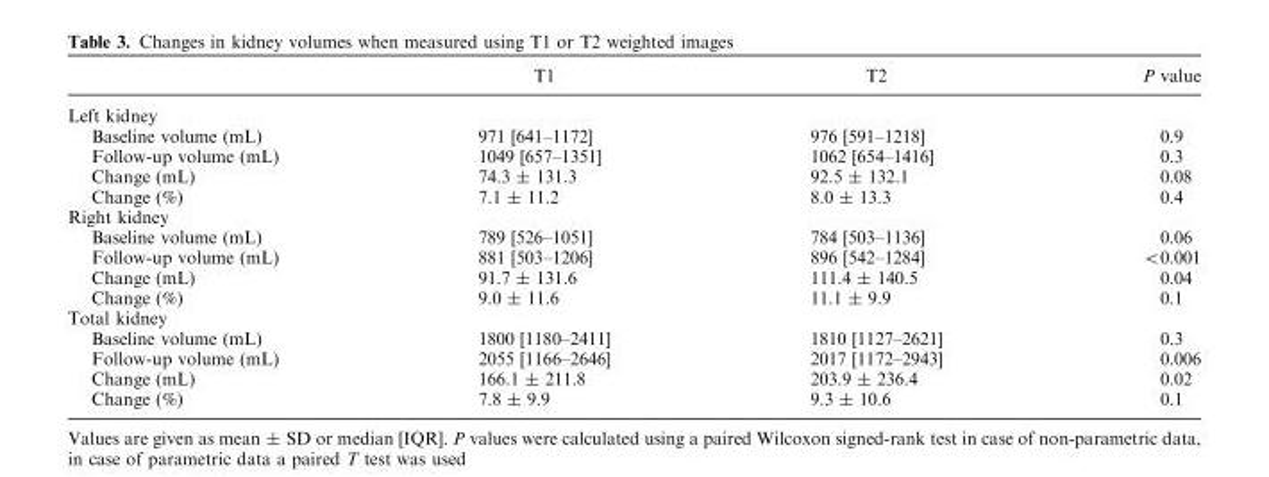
<table><thead><tr><td></td><td>T1</td><td>T2</td><td>P value</td></tr></thead><tbody><tr><td colspan="4">Left kidney</td></tr><tr><td>Baseline volume (mL)</td><td>971 [641–1172]</td><td>976 [591–1218]</td><td>0.9</td></tr><tr><td>Follow-up volume (mL)</td><td>1049 [657–1351]</td><td>1062 [654–1416]</td><td>0.3</td></tr><tr><td>Change (mL)</td><td>74.3 ± 131.3</td><td>92.5 ± 132.1</td><td>0.08</td></tr><tr><td>Change (%)</td><td>7.1 ± 11.2</td><td>8.0 ± 13.3</td><td>0.4</td></tr><tr><td colspan="4">Right kidney</td></tr><tr><td>Baseline volume (mL)</td><td>789 [526–1051]</td><td>784 [503–1136]</td><td>0.06</td></tr><tr><td>Follow-up volume (mL)</td><td>881 [503–1206]</td><td>896 [542–1284]</td><td>&lt;0.001</td></tr><tr><td>Change (mL)</td><td>91.7 ± 131.6</td><td>111.4 ± 140.5</td><td>0.04</td></tr><tr><td>Change (%)</td><td>9.0 ± 11.6</td><td>11.1 ± 9.9</td><td>0.1</td></tr><tr><td colspan="4">Total kidney</td></tr><tr><td>Baseline volume (mL)</td><td>1800 [1180–2411]</td><td>1810 [1127–2621]</td><td>0.3</td></tr><tr><td>Follow-up volume (mL)</td><td>2055 [1166–2646]</td><td>2017 [1172–2943]</td><td>0.006</td></tr><tr><td>Change (mL)</td><td>166.1 ± 211.8</td><td>203.9 ± 236.4</td><td>0.02</td></tr><tr><td>Change (%)</td><td>7.8 ± 9.9</td><td>9.3 ± 10.6</td><td>0.1</td></tr></tbody></table>